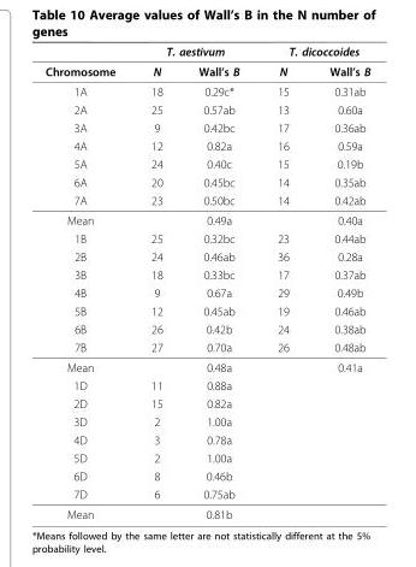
<table><thead><tr><td rowspan="2">Chromosome</td><td colspan="2">T. aestivum</td><td colspan="2">T. dicoccoides</td></tr><tr><td>N</td><td>Wall’s B</td><td>N</td><td>Wall’s B</td></tr></thead><tbody><tr><td>1A</td><td>18</td><td>0.29c*</td><td>15</td><td>0.31ab</td></tr><tr><td>2A</td><td>25</td><td>0.57ab</td><td>13</td><td>0.60a</td></tr><tr><td>3A</td><td>9</td><td>0.42bc</td><td>17</td><td>0.36ab</td></tr><tr><td>4A</td><td>12</td><td>0.82a</td><td>16</td><td>0.59a</td></tr><tr><td>5A</td><td>24</td><td>0.40c</td><td>15</td><td>0.19b</td></tr><tr><td>6A</td><td>20</td><td>0.45bc</td><td>14</td><td>0.35ab</td></tr><tr><td>7A</td><td>23</td><td>0.50bc</td><td>14</td><td>0.42ab</td></tr><tr><td>Mean</td><td></td><td>0.49a</td><td></td><td>0.40a</td></tr><tr><td>1B</td><td>25</td><td>0.32bc</td><td>23</td><td>0.44ab</td></tr><tr><td>2B</td><td>24</td><td>0.46ab</td><td>36</td><td>0.28a</td></tr><tr><td>3B</td><td>18</td><td>0.33bc</td><td>17</td><td>0.37ab</td></tr><tr><td>4B</td><td>9</td><td>0.67a</td><td>29</td><td>0.49b</td></tr><tr><td>5B</td><td>12</td><td>0.45ab</td><td>19</td><td>0.46ab</td></tr><tr><td>6B</td><td>26</td><td>0.42b</td><td>24</td><td>0.38ab</td></tr><tr><td>7B</td><td>27</td><td>0.70a</td><td>26</td><td>0.48ab</td></tr><tr><td>Mean</td><td></td><td>0.48a</td><td></td><td>0.41a</td></tr><tr><td>1D</td><td>11</td><td>0.88a</td><td></td><td></td></tr><tr><td>2D</td><td>15</td><td>0.82a</td><td></td><td></td></tr><tr><td>3D</td><td>2</td><td>1.00a</td><td></td><td></td></tr><tr><td>4D</td><td>3</td><td>0.78a</td><td></td><td></td></tr><tr><td>5D</td><td>2</td><td>1.00a</td><td></td><td></td></tr><tr><td>6D</td><td>8</td><td>0.46b</td><td></td><td></td></tr><tr><td>7D</td><td>6</td><td>0.75ab</td><td></td><td></td></tr><tr><td>Mean</td><td></td><td>0.81b</td><td></td><td></td></tr></tbody></table>